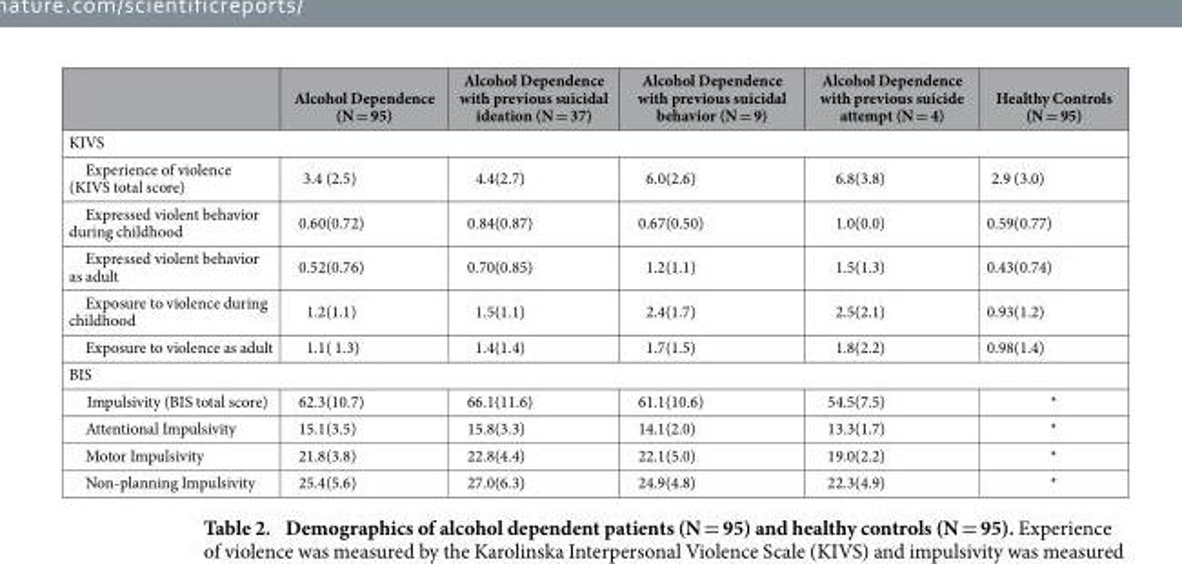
<table><thead><tr><td></td><td>Alcohol Dependence (N = 95)</td><td>Alcohol Dependence with previous suicidal ideation (N = 37)</td><td>Alcohol Dependence with previous suicidal behavior (N = 9)</td><td>Alcohol Dependence with previous suicide attempt (N = 4)</td><td>Healthy Controls (N = 95)</td></tr></thead><tbody><tr><td colspan="6">KIVS</td></tr><tr><td>Experience of violence (KIVS total score)</td><td>3.4 (2.5)</td><td>4.4(2.7)</td><td>6.0(2.6)</td><td>6.8(3.8)</td><td>2.9 (3.0)</td></tr><tr><td>Expressed violent behavior during childhood</td><td>0.60(0.72)</td><td>0.84(0.87)</td><td>0.67(0.50)</td><td>1.0(0.0)</td><td>0.59(0.77)</td></tr><tr><td>Expressed violent behavior as adult</td><td>0.52(0.76)</td><td>0.70(0.85)</td><td>1.2(1.1)</td><td>1.5(1.3)</td><td>0.43(0.74)</td></tr><tr><td>Exposure to violence during childhood</td><td>1.2(1.1)</td><td>1.5(1.1)</td><td>2.4(1.7)</td><td>2.5(2.1)</td><td>0.93(1.2)</td></tr><tr><td>Exposure to violence as adult</td><td>1.1( 1.3)</td><td>1.4(1.4)</td><td>1.7(1.5)</td><td>1.8(2.2)</td><td>0.98(1.4)</td></tr><tr><td colspan="6">BIS</td></tr><tr><td>Impulsivity (BIS total score)</td><td>62.3(10.7)</td><td>66.1(11.6)</td><td>61.1(10.6)</td><td>54.5(7.5)</td><td>*</td></tr><tr><td>Attentional Impulsivity</td><td>15.1(3.5)</td><td>15.8(3.3)</td><td>14.1(2.0)</td><td>13.3(1.7)</td><td>*</td></tr><tr><td>Motor Impulsivity</td><td>21.8(3.8)</td><td>22.8(4.4)</td><td>22.1(5.0)</td><td>19.0(2.2)</td><td>*</td></tr><tr><td>Non-planning Impulsivity</td><td>25.4(5.6)</td><td>27.0(6.3)</td><td>24.9(4.8)</td><td>22.3(4.9)</td><td>*</td></tr></tbody></table>